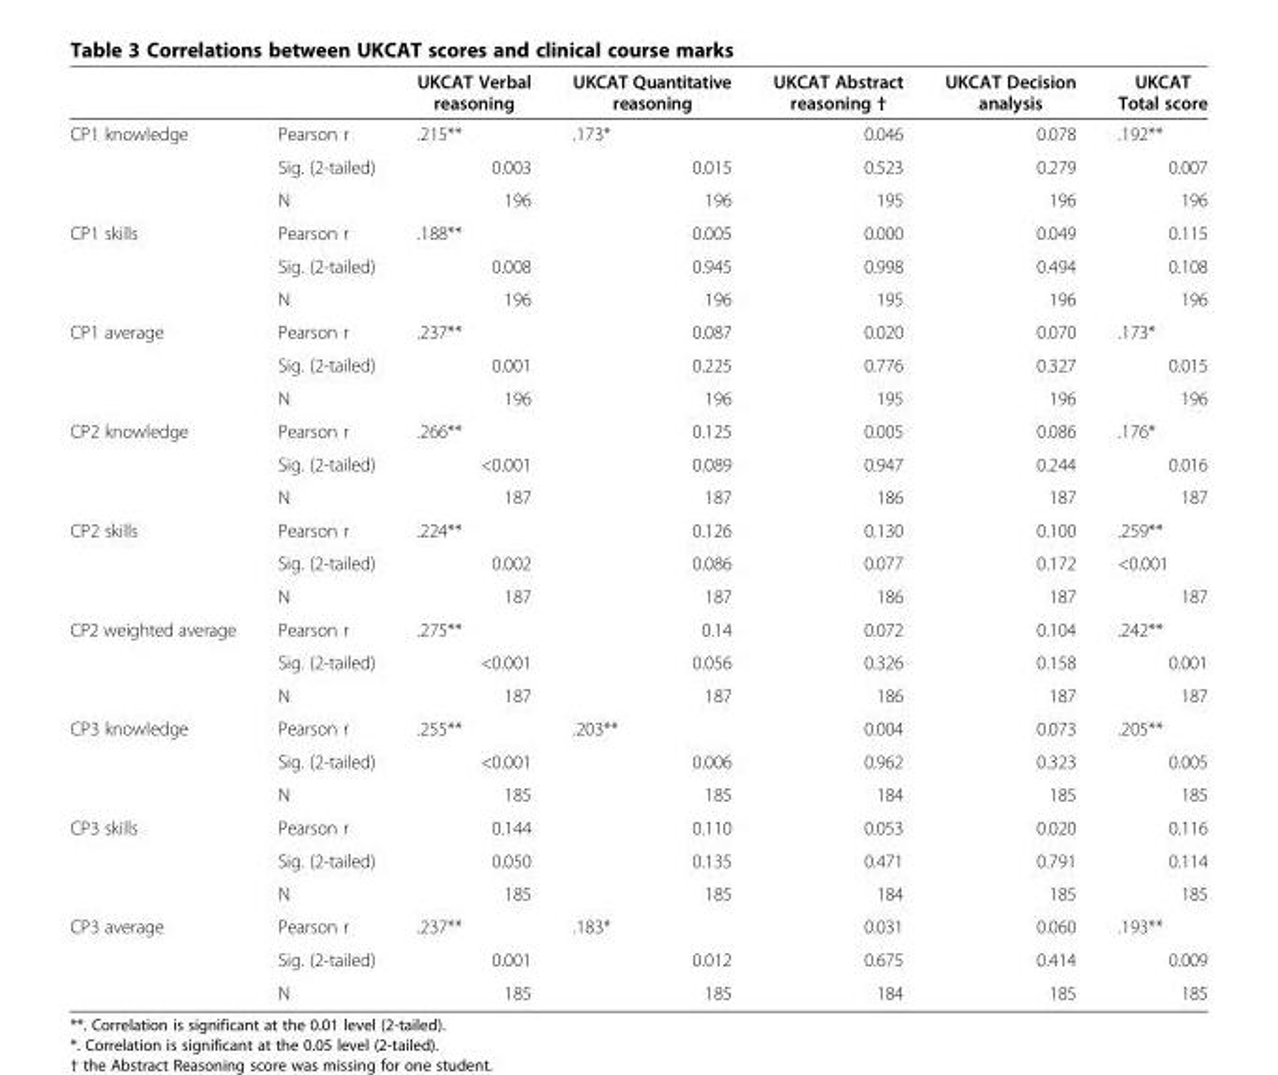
<table><thead><tr><td></td><td></td><td>UKCAT Verbal reasoning</td><td>UKCAT Quantitative reasoning</td><td>UKCAT Abstract reasoning †</td><td>UKCAT Decision analysis</td><td>UKCAT Total score</td></tr></thead><tbody><tr><td rowspan="3">CP1 knowledge</td><td>Pearson r</td><td>.215**</td><td>.173*</td><td>0.046</td><td>0.078</td><td>.192**</td></tr><tr><td>Sig. (2-tailed)</td><td>0.003</td><td>0.015</td><td>0.523</td><td>0.279</td><td>0.007</td></tr><tr><td>N</td><td>196</td><td>196</td><td>195</td><td>196</td><td>196</td></tr><tr><td rowspan="3">CP1 skills</td><td>Pearson r</td><td>.188**</td><td>0.005</td><td>0.000</td><td>0.049</td><td>0.115</td></tr><tr><td>Sig. (2-tailed)</td><td>0.008</td><td>0.945</td><td>0.998</td><td>0.494</td><td>0.108</td></tr><tr><td>N</td><td>196</td><td>196</td><td>195</td><td>196</td><td>196</td></tr><tr><td rowspan="3">CP1 average</td><td>Pearson r</td><td>.237**</td><td>0.087</td><td>0.020</td><td>0.070</td><td>.173*</td></tr><tr><td>Sig. (2-tailed)</td><td>0.001</td><td>0.225</td><td>0.776</td><td>0.327</td><td>0.015</td></tr><tr><td>N</td><td>196</td><td>196</td><td>195</td><td>196</td><td>196</td></tr><tr><td rowspan="3">CP2 knowledge</td><td>Pearson r</td><td>.266**</td><td>0.125</td><td>0.005</td><td>0.086</td><td>.176*</td></tr><tr><td>Sig. (2-tailed)</td><td>&lt;0.001</td><td>0.089</td><td>0.947</td><td>0.244</td><td>0.016</td></tr><tr><td>N</td><td>187</td><td>187</td><td>186</td><td>187</td><td>187</td></tr><tr><td rowspan="3">CP2 skills</td><td>Pearson r</td><td>.224**</td><td>0.126</td><td>0.130</td><td>0.100</td><td>.259**</td></tr><tr><td>Sig. (2-tailed)</td><td>0.002</td><td>0.086</td><td>0.077</td><td>0.172</td><td>&lt;0.001</td></tr><tr><td>N</td><td>187</td><td>187</td><td>186</td><td>187</td><td>187</td></tr><tr><td rowspan="3">CP2 weighted average</td><td>Pearson r</td><td>.275**</td><td>0.14</td><td>0.072</td><td>0.104</td><td>.242**</td></tr><tr><td>Sig. (2-tailed)</td><td>&lt;0.001</td><td>0.056</td><td>0.326</td><td>0.158</td><td>0.001</td></tr><tr><td>N</td><td>187</td><td>187</td><td>186</td><td>187</td><td>187</td></tr><tr><td rowspan="3">CP3 knowledge</td><td>Pearson r</td><td>.255**</td><td>.203**</td><td>0.004</td><td>0.073</td><td>.205**</td></tr><tr><td>Sig. (2-tailed)</td><td>&lt;0.001</td><td>0.006</td><td>0.962</td><td>0.323</td><td>0.005</td></tr><tr><td>N</td><td>185</td><td>185</td><td>184</td><td>185</td><td>185</td></tr><tr><td rowspan="3">CP3 skills</td><td>Pearson r</td><td>0.144</td><td>0.110</td><td>0.053</td><td>0.020</td><td>0.116</td></tr><tr><td>Sig. (2-tailed)</td><td>0.050</td><td>0.135</td><td>0.471</td><td>0.791</td><td>0.114</td></tr><tr><td>N</td><td>185</td><td>185</td><td>184</td><td>185</td><td>185</td></tr><tr><td rowspan="3">CP3 average</td><td>Pearson r</td><td>.237**</td><td>.183*</td><td>0.031</td><td>0.060</td><td>.193**</td></tr><tr><td>Sig. (2-tailed)</td><td>0.001</td><td>0.012</td><td>0.675</td><td>0.414</td><td>0.009</td></tr><tr><td>N</td><td>185</td><td>185</td><td>184</td><td>185</td><td>185</td></tr></tbody></table>